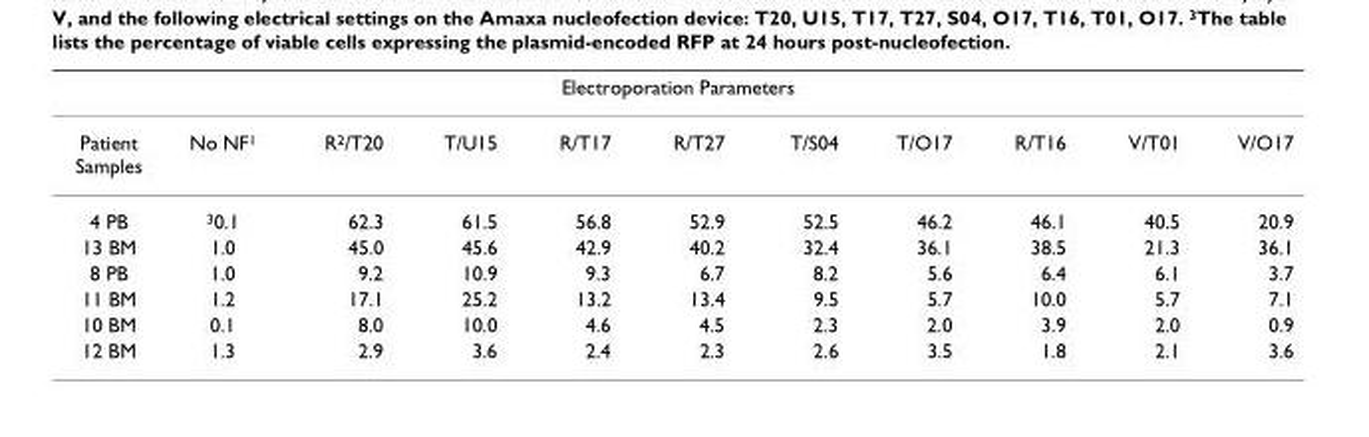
<table><thead><tr><td colspan="11">Electroporation Parameters</td></tr><tr><td>Patient Samples</td><td>No NF<sup>1</sup></td><td>R<sup>2</sup>/T20</td><td>T/U15</td><td>R/T17</td><td>R/T27</td><td>T/S04</td><td>T/O17</td><td>R/T16</td><td>V/T01</td><td>V/O17</td></tr></thead><tbody><tr><td>4 PB</td><td><sup>3</sup>0.1</td><td>62.3</td><td>61.5</td><td>56.8</td><td>52.9</td><td>52.5</td><td>46.2</td><td>46.1</td><td>40.5</td><td>20.9</td></tr><tr><td>13 BM</td><td>1.0</td><td>45.0</td><td>45.6</td><td>42.9</td><td>40.2</td><td>32.4</td><td>36.1</td><td>38.5</td><td>21.3</td><td>36.1</td></tr><tr><td>8 PB</td><td>1.0</td><td>9.2</td><td>10.9</td><td>9.3</td><td>6.7</td><td>8.2</td><td>5.6</td><td>6.4</td><td>6.1</td><td>3.7</td></tr><tr><td>11 BM</td><td>1.2</td><td>17.1</td><td>25.2</td><td>13.2</td><td>13.4</td><td>9.5</td><td>5.7</td><td>10.0</td><td>5.7</td><td>7.1</td></tr><tr><td>10 BM</td><td>0.1</td><td>8.0</td><td>10.0</td><td>4.6</td><td>4.5</td><td>2.3</td><td>2.0</td><td>3.9</td><td>2.0</td><td>0.9</td></tr><tr><td>12 BM</td><td>1.3</td><td>2.9</td><td>3.6</td><td>2.4</td><td>2.3</td><td>2.6</td><td>3.5</td><td>1.8</td><td>2.1</td><td>3.6</td></tr></tbody></table>